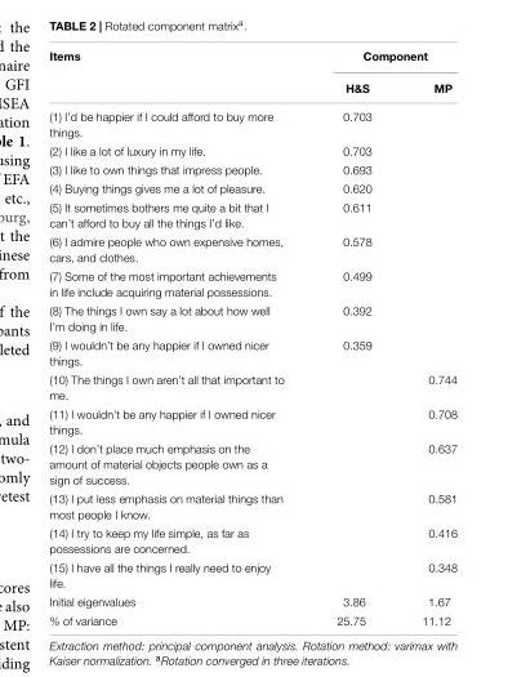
<table><thead><tr><td rowspan="2">Items</td><td colspan="2">Component</td></tr><tr><td>H&amp;S</td><td>MP</td></tr></thead><tbody><tr><td>(1) I’d be happier if I could afford to buy more things.</td><td>0.703</td><td></td></tr><tr><td>(2) I like a lot of luxury in my life.</td><td>0.703</td><td></td></tr><tr><td>(3) I like to own things that impress people.</td><td>0.693</td><td></td></tr><tr><td>(4) Buying things gives me a lot of pleasure.</td><td>0.620</td><td></td></tr><tr><td>(5) It sometimes bothers me quite a bit that I can’t afford to buy all the things I’d like.</td><td>0.611</td><td></td></tr><tr><td>(6) I admire people who own expensive homes, cars, and clothes.</td><td>0.578</td><td></td></tr><tr><td>(7) Some of the most important achievements in life include acquiring material possessions.</td><td>0.499</td><td></td></tr><tr><td>(8) The things I own say a lot about how well I’m doing in life.</td><td>0.392</td><td></td></tr><tr><td>(9) I wouldn’t be any happier if I owned nicer things.</td><td>0.359</td><td></td></tr><tr><td>(10) The things I own aren’t all that important to me.</td><td></td><td>0.744</td></tr><tr><td>(11) I wouldn’t be any happier if I owned nicer things.</td><td></td><td>0.708</td></tr><tr><td>(12) I don’t place much emphasis on the amount of material objects people own as a sign of success.</td><td></td><td>0.637</td></tr><tr><td>(13) I put less emphasis on material things than most people I know.</td><td></td><td>0.581</td></tr><tr><td>(14) I try to keep my life simple, as far as possessions are concerned.</td><td></td><td>0.416</td></tr><tr><td>(15) I have all the things I really need to enjoy life.</td><td></td><td>0.348</td></tr><tr><td>Initial eigenvalues</td><td>3.86</td><td>1.67</td></tr><tr><td>% of variance</td><td>25.75</td><td>11.12</td></tr></tbody></table>